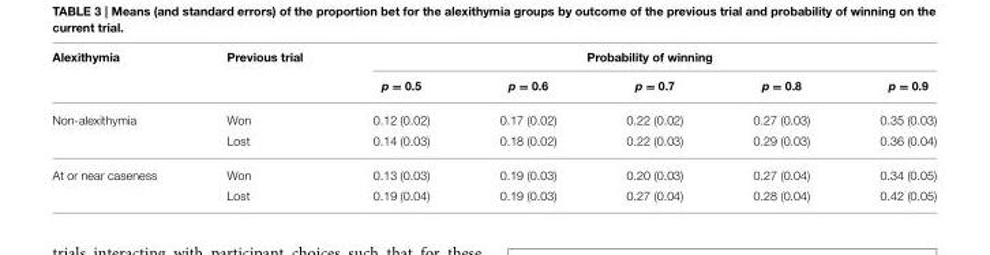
<table><thead><tr><td rowspan="2">Alexithymia</td><td rowspan="2">Previous trial</td><td colspan="5">Probability of winning</td></tr><tr><td>p = 0.5</td><td>p = 0.6</td><td>p = 0.7</td><td>p = 0.8</td><td>p = 0.9</td></tr></thead><tbody><tr><td rowspan="2">Non-alexithymia</td><td>Won</td><td>0.12 (0.02)</td><td>0.17 (0.02)</td><td>0.22 (0.02)</td><td>0.27 (0.03)</td><td>0.35 (0.03)</td></tr><tr><td>Lost</td><td>0.14 (0.03)</td><td>0.18 (0.02)</td><td>0.22 (0.03)</td><td>0.29 (0.03)</td><td>0.36 (0.04)</td></tr><tr><td rowspan="2">At or near caseness</td><td>Won</td><td>0.13 (0.03)</td><td>0.19 (0.03)</td><td>0.20 (0.03)</td><td>0.27 (0.04)</td><td>0.34 (0.05)</td></tr><tr><td>Lost</td><td>0.19 (0.04)</td><td>0.19 (0.03)</td><td>0.27 (0.04)</td><td>0.28 (0.04)</td><td>0.42 (0.05)</td></tr></tbody></table>